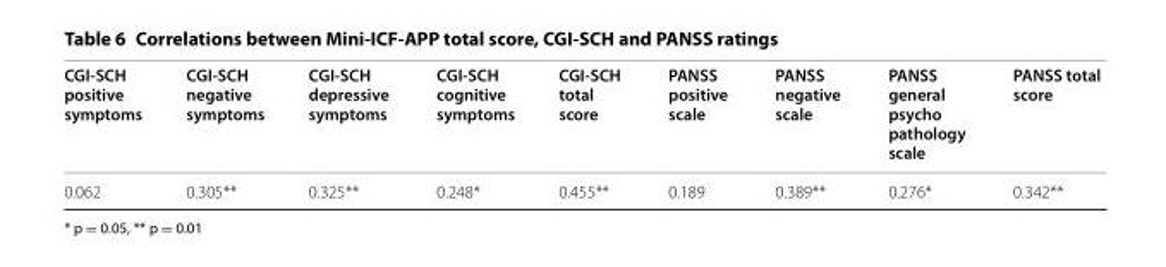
<table><thead><tr><td>CGI-SCH positive symptoms</td><td>CGI-SCH negative symptoms</td><td>CGI-SCH depressive symptoms</td><td>CGI-SCH cognitive symptoms</td><td>CGI-SCH total score</td><td>PANSS positive scale</td><td>PANSS negative scale</td><td>PANSS general psycho pathology scale</td><td>PANSS total score</td></tr></thead><tbody><tr><td>0.062</td><td>0.305**</td><td>0.325**</td><td>0.248*</td><td>0.455**</td><td>0.189</td><td>0.389**</td><td>0.276*</td><td>0.342**</td></tr></tbody></table>